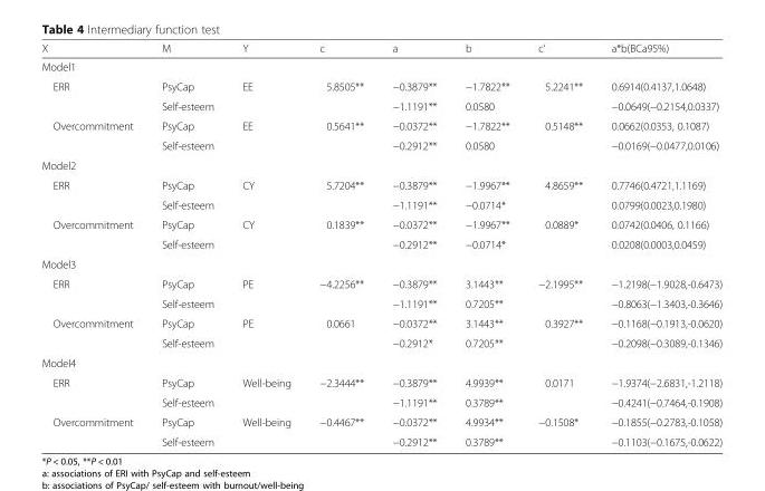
<table><thead><tr><td>X</td><td>M</td><td>Y</td><td>c</td><td>a</td><td>b</td><td>c’</td><td>a*b(BCa95%)</td></tr></thead><tbody><tr><td colspan="8">Model1</td></tr><tr><td rowspan="2">ERR</td><td>PsyCap</td><td rowspan="2">EE</td><td>5.8505**</td><td>−0.3879**</td><td>−1.7822**</td><td>5.2241**</td><td>0.6914(0.4137,1.0648)</td></tr><tr><td>Self-esteem</td><td></td><td>−1.1191**</td><td>0.0580</td><td></td><td>−0.0649(−0.2154,0.0337)</td></tr><tr><td rowspan="2">Overcommitment</td><td>PsyCap</td><td rowspan="2">EE</td><td>0.5641**</td><td>−0.0372**</td><td>−1.7822**</td><td>0.5148**</td><td>0.0662(0.0353, 0.1087)</td></tr><tr><td>Self-esteem</td><td></td><td>−0.2912**</td><td>0.0580</td><td></td><td>−0.0169(−0.0477,0.0106)</td></tr><tr><td colspan="8">Model2</td></tr><tr><td rowspan="2">ERR</td><td>PsyCap</td><td rowspan="2">CY</td><td>5.7204**</td><td>−0.3879**</td><td>−1.9967**</td><td>4.8659**</td><td>0.7746(0.4721,1.1169)</td></tr><tr><td>Self-esteem</td><td></td><td>−1.1191**</td><td>−0.0714*</td><td></td><td>0.0799(0.0023,0.1980)</td></tr><tr><td rowspan="2">Overcommitment</td><td>PsyCap</td><td rowspan="2">CY</td><td>0.1839**</td><td>−0.0372**</td><td>−1.9967**</td><td>0.0889*</td><td>0.0742(0.0406, 0.1166)</td></tr><tr><td>Self-esteem</td><td></td><td>−0.2912**</td><td>−0.0714*</td><td></td><td>0.0208(0.0003,0.0459)</td></tr><tr><td colspan="8">Model3</td></tr><tr><td rowspan="2">ERR</td><td>PsyCap</td><td rowspan="2">PE</td><td>−4.2256**</td><td>−0.3879**</td><td>3.1443**</td><td>−2.1995**</td><td>−1.2198(−1.9028,-0.6473)</td></tr><tr><td>Self-esteem</td><td></td><td>−1.1191**</td><td>0.7205**</td><td></td><td>−0.8063(−1.3403,-0.3646)</td></tr><tr><td rowspan="2">Overcommitment</td><td>PsyCap</td><td rowspan="2">PE</td><td>0.0661</td><td>−0.0372**</td><td>3.1443**</td><td>0.3927**</td><td>−0.1168(−0.1913,-0.0620)</td></tr><tr><td>Self-esteem</td><td></td><td>−0.2912*</td><td>0.7205**</td><td></td><td>−0.2098(−0.3089,-0.1346)</td></tr><tr><td colspan="8">Model4</td></tr><tr><td rowspan="2">ERR</td><td>PsyCap</td><td rowspan="2">Well-being</td><td>−2.3444**</td><td>−0.3879**</td><td>4.9939**</td><td>0.0171</td><td>−1.9374(−2.6831,-1.2118)</td></tr><tr><td>Self-esteem</td><td></td><td>−1.1191**</td><td>0.3789**</td><td></td><td>−0.4241(−0.7464,-0.1908)</td></tr><tr><td rowspan="2">Overcommitment</td><td>PsyCap</td><td rowspan="2">Well-being</td><td>−0.4467**</td><td>−0.0372**</td><td>4.9934**</td><td>−0.1508*</td><td>−0.1855(−0.2783,-0.1058)</td></tr><tr><td>Self-esteem</td><td></td><td>−0.2912**</td><td>0.3789**</td><td></td><td>−0.1103(−0.1675,-0.0622)</td></tr></tbody></table>